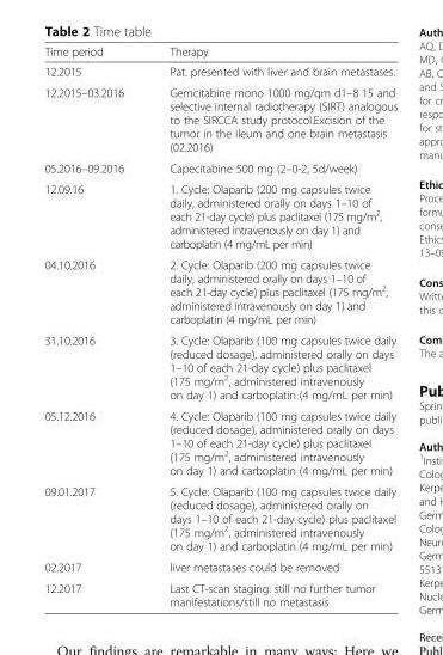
<table><thead><tr><td>Time period</td><td>Therapy</td></tr></thead><tbody><tr><td>12.2015</td><td>Pat. presented with liver and brain metastases.</td></tr><tr><td>12.2015–03.2016</td><td>Gemcitabine mono 1000 mg/qm d1–8 15 and selective internal radiotherapy (SIRT) analogous to the SIRCCA study protocol.Excision of the tumor in the ileum and one brain metastasis (02.2016)</td></tr><tr><td>05.2016–09.2016</td><td>Capecitabine 500 mg (2–0-2, 5d/week)</td></tr><tr><td>12.09.16</td><td>1. Cycle: Olaparib (200 mg capsules twice daily, administered orally on days 1–10 of each 21-day cycle) plus paclitaxel (175 mg/m<sup>2</sup>, administered intravenously on day 1) and carboplatin (4 mg/mL per min)</td></tr><tr><td>04.10.2016</td><td>2. Cycle: Olaparib (200 mg capsules twice daily, administered orally on days 1–10 of each 21-day cycle) plus paclitaxel (175 mg/m<sup>2</sup>, administered intravenously on day 1) and carboplatin (4 mg/mL per min)</td></tr><tr><td>31.10.2016</td><td>3. Cycle: Olaparib (100 mg capsules twice daily (reduced dosage), administered orally on days 1–10 of each 21-day cycle) plus paclitaxel (175 mg/m<sup>2</sup>, administered intravenously on day 1) and carboplatin (4 mg/mL per min)</td></tr><tr><td>05.12.2016</td><td>4. Cycle: Olaparib (100 mg capsules twice daily (reduced dosage), administered orally on days 1–10 of each 21-day cycle) plus paclitaxel (175 mg/m<sup>2</sup>, administered intravenously on day 1) and carboplatin (4 mg/mL per min)</td></tr><tr><td>09.01.2017</td><td>5. Cycle: Olaparib (100 mg capsules twice daily (reduced dosage), administered orally on days 1–10 of each 21-day cycle) plus paclitaxel (175 mg/m<sup>2</sup>, administered intravenously on day 1) and carboplatin (4 mg/mL per min)</td></tr><tr><td>02.2017</td><td>liver metastases could be removed</td></tr><tr><td>12.2017</td><td>Last CT-scan staging: still no further tumor manifestations/still no metastasis</td></tr></tbody></table>